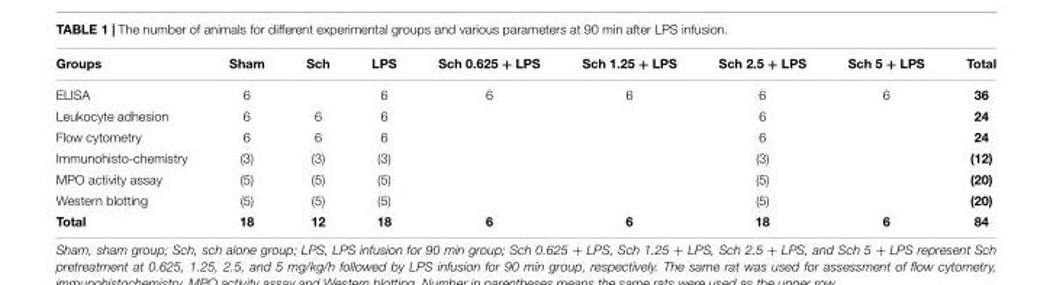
<table><thead><tr><td>Groups</td><td>Sham</td><td>Sch</td><td>LPS</td><td>Sch 0.625 + LPS</td><td>Sch 1.25 + LPS</td><td>Sch 2.5 + LPS</td><td>Sch 5 + LPS</td><td>Total</td></tr></thead><tbody><tr><td>ELISA</td><td>6</td><td></td><td>6</td><td>6</td><td>6</td><td>6</td><td>6</td><td>36</td></tr><tr><td>Leukocyte adhesion</td><td>6</td><td>6</td><td>6</td><td></td><td></td><td>6</td><td></td><td>24</td></tr><tr><td>Flow cytometry</td><td>6</td><td>6</td><td>6</td><td></td><td></td><td>6</td><td></td><td>24</td></tr><tr><td>Immunohisto-chemistry</td><td>(3)</td><td>(3)</td><td>(3)</td><td></td><td></td><td>(3)</td><td></td><td>(12)</td></tr><tr><td>MPO activity assay</td><td>(5)</td><td>(5)</td><td>(5)</td><td></td><td></td><td>(5)</td><td></td><td>(20)</td></tr><tr><td>Western blotting</td><td>(5)</td><td>(5)</td><td>(5)</td><td></td><td></td><td>(5)</td><td></td><td>(20)</td></tr><tr><td>Total</td><td>18</td><td>12</td><td>18</td><td>6</td><td>6</td><td>18</td><td>6</td><td>84</td></tr></tbody></table>